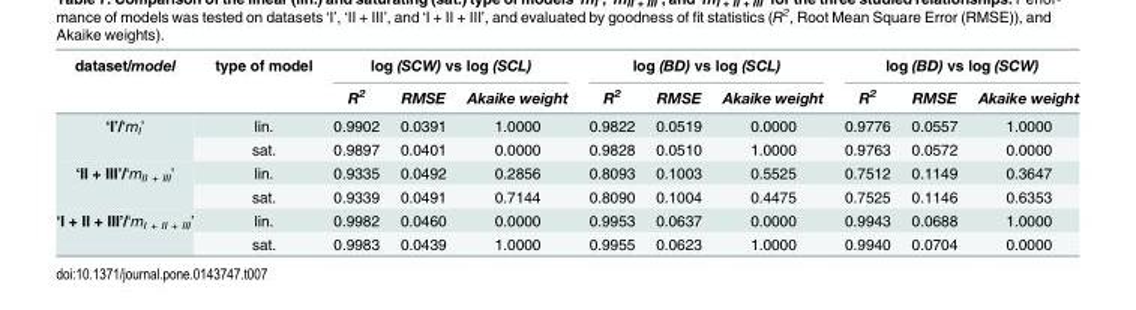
<table><thead><tr><td rowspan="2">dataset/model</td><td rowspan="2">type of model</td><td colspan="3">log (SCW) vs log (SCL)</td><td colspan="3">log (BD) vs log (SCL)</td><td colspan="3">log (BD) vs log (SCW)</td></tr><tr><td>R<sup>2</sup></td><td>RMSE</td><td>Akaike weight</td><td>R<sup>2</sup></td><td>RMSE</td><td>Akaike weight</td><td>R<sup>2</sup></td><td>RMSE</td><td>Akaike weight</td></tr></thead><tbody><tr><td rowspan="2">‘I’/‘m<sub>I</sub>’</td><td>lin.</td><td>0.9902</td><td>0.0391</td><td>1.0000</td><td>0.9822</td><td>0.0519</td><td>0.0000</td><td>0.9776</td><td>0.0557</td><td>1.0000</td></tr><tr><td>sat.</td><td>0.9897</td><td>0.0401</td><td>0.0000</td><td>0.9828</td><td>0.0510</td><td>1.0000</td><td>0.9763</td><td>0.0572</td><td>0.0000</td></tr><tr><td rowspan="2">‘II + III’/‘m<sub>II + III</sub>’</td><td>lin.</td><td>0.9335</td><td>0.0492</td><td>0.2856</td><td>0.8093</td><td>0.1003</td><td>0.5525</td><td>0.7512</td><td>0.1149</td><td>0.3647</td></tr><tr><td>sat.</td><td>0.9339</td><td>0.0491</td><td>0.7144</td><td>0.8090</td><td>0.1004</td><td>0.4475</td><td>0.7525</td><td>0.1146</td><td>0.6353</td></tr><tr><td rowspan="2">‘I + II + III’/‘m<sub>I + II + III</sub>’</td><td>lin.</td><td>0.9982</td><td>0.0460</td><td>0.0000</td><td>0.9953</td><td>0.0637</td><td>0.0000</td><td>0.9943</td><td>0.0688</td><td>1.0000</td></tr><tr><td>sat.</td><td>0.9983</td><td>0.0439</td><td>1.0000</td><td>0.9955</td><td>0.0623</td><td>1.0000</td><td>0.9940</td><td>0.0704</td><td>0.0000</td></tr></tbody></table>